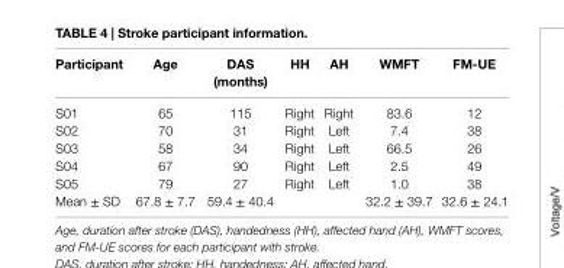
<table><thead><tr><td>Participant</td><td>age</td><td>Das (months)</td><td>hh</td><td>ah</td><td>WMFT</td><td>FM-Ue</td></tr></thead><tbody><tr><td>S01</td><td>65</td><td>115</td><td>Right</td><td>Right</td><td>83.6</td><td>12</td></tr><tr><td>S02</td><td>70</td><td>31</td><td>Right</td><td>Left</td><td>7.4</td><td>38</td></tr><tr><td>S03</td><td>58</td><td>34</td><td>Right</td><td>Left</td><td>66.5</td><td>26</td></tr><tr><td>S04</td><td>67</td><td>90</td><td>Right</td><td>Left</td><td>2.5</td><td>49</td></tr><tr><td>S05</td><td>79</td><td>27</td><td>Right</td><td>Left</td><td>1.0</td><td>38</td></tr><tr><td>Mean ± SD</td><td>67.8 ± 7.7</td><td>59.4 ± 40.4</td><td></td><td></td><td>32.2 ± 39.7</td><td>32.6 ± 24.1</td></tr></tbody></table>